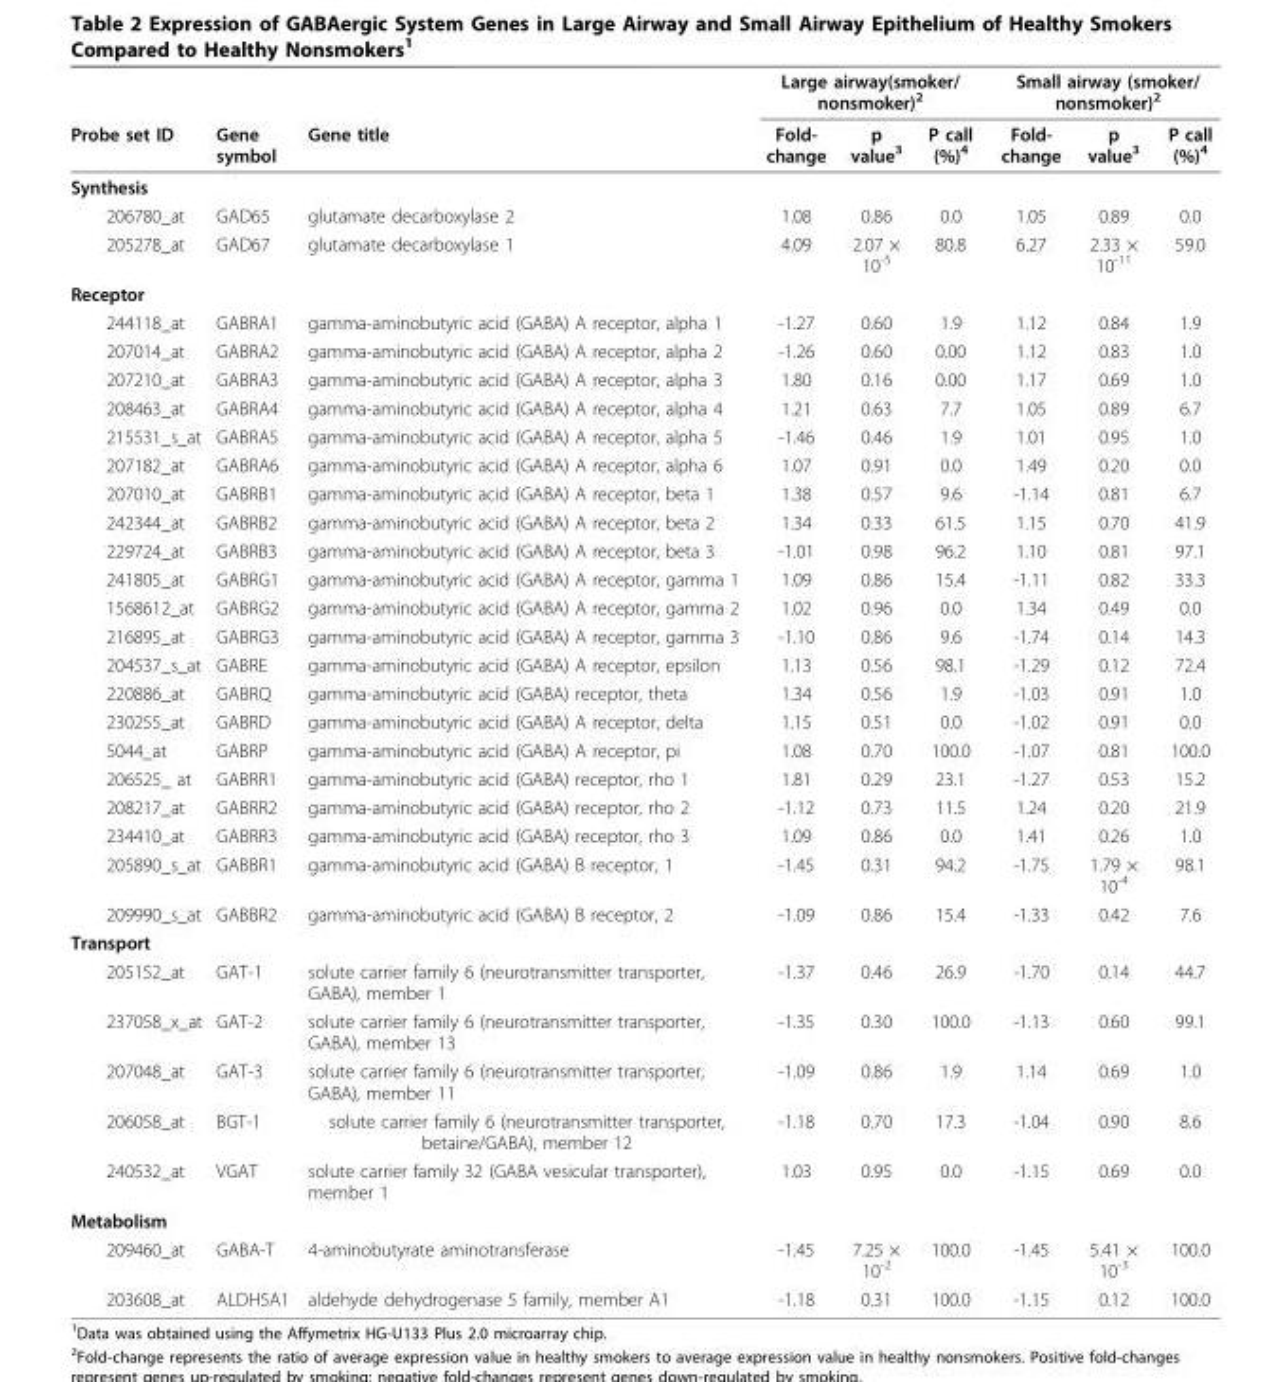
<table><thead><tr><td rowspan="2">Probe set ID</td><td rowspan="2">Gene symbol</td><td rowspan="2">Gene title</td><td colspan="3">Large airway(smoker/ nonsmoker)<sup>2</sup></td><td colspan="3">Small airway (smoker/ nonsmoker)<sup>2</sup></td></tr><tr><td>Fold- change</td><td>p value<sup>3</sup></td><td>P call (%)<sup>4</sup></td><td>Fold- change</td><td>p value<sup>3</sup></td><td>P call (%)<sup>4</sup></td></tr></thead><tbody><tr><td colspan="9">Synthesis</td></tr><tr><td>206780_at</td><td>GAD65</td><td>glutamate decarboxylase 2</td><td>1.08</td><td>0.86</td><td>0.0</td><td>1.05</td><td>0.89</td><td>0.0</td></tr><tr><td>205278_at</td><td>GAD67</td><td>glutamate decarboxylase 1</td><td>4.09</td><td>2.07 × 10<sup>-5</sup></td><td>80.8</td><td>6.27</td><td>2.33 × 10<sup>-11</sup></td><td>59.0</td></tr><tr><td colspan="9">Receptor</td></tr><tr><td>244118_at</td><td>GABRA1</td><td>gamma-aminobutyric acid (GABA) A receptor, alpha 1</td><td>-1.27</td><td>0.60</td><td>1.9</td><td>1.12</td><td>0.84</td><td>1.9</td></tr><tr><td>207014_at</td><td>GABRA2</td><td>gamma-aminobutyric acid (GABA) A receptor, alpha 2</td><td>-1.26</td><td>0.60</td><td>0.00</td><td>1.12</td><td>0.83</td><td>1.0</td></tr><tr><td>207210_at</td><td>GABRA3</td><td>gamma-aminobutyric acid (GABA) A receptor, alpha 3</td><td>1.80</td><td>0.16</td><td>0.00</td><td>1.17</td><td>0.69</td><td>1.0</td></tr><tr><td>208463_at</td><td>GABRA4</td><td>gamma-aminobutyric acid (GABA) A receptor, alpha 4</td><td>1.21</td><td>0.63</td><td>7.7</td><td>1.05</td><td>0.89</td><td>6.7</td></tr><tr><td>215531_s_at</td><td>GABRA5</td><td>gamma-aminobutyric acid (GABA) A receptor, alpha 5</td><td>-1.46</td><td>0.46</td><td>1.9</td><td>1.01</td><td>0.95</td><td>1.0</td></tr><tr><td>207182_at</td><td>GABRA6</td><td>gamma-aminobutyric acid (GABA) A receptor, alpha 6</td><td>1.07</td><td>0.91</td><td>0.0</td><td>1.49</td><td>0.20</td><td>0.0</td></tr><tr><td>207010_at</td><td>GABRB1</td><td>gamma-aminobutyric acid (GABA) A receptor, beta 1</td><td>1.38</td><td>0.57</td><td>9.6</td><td>-1.14</td><td>0.81</td><td>6.7</td></tr><tr><td>242344_at</td><td>GABRB2</td><td>gamma-aminobutyric acid (GABA) A receptor, beta 2</td><td>1.34</td><td>0.33</td><td>61.5</td><td>1.15</td><td>0.70</td><td>41.9</td></tr><tr><td>229724_at</td><td>GABRB3</td><td>gamma-aminobutyric acid (GABA) A receptor, beta 3</td><td>-1.01</td><td>0.98</td><td>96.2</td><td>1.10</td><td>0.81</td><td>97.1</td></tr><tr><td>241805_at</td><td>GABRG1</td><td>gamma-aminobutyric acid (GABA) A receptor, gamma 1</td><td>1.09</td><td>0.86</td><td>15.4</td><td>-1.11</td><td>0.82</td><td>33.3</td></tr><tr><td>1568612_at</td><td>GABRG2</td><td>gamma-aminobutyric acid (GABA) A receptor, gamma 2</td><td>1.02</td><td>0.96</td><td>0.0</td><td>1.34</td><td>0.49</td><td>0.0</td></tr><tr><td>216895_at</td><td>GABRG3</td><td>gamma-aminobutyric acid (GABA) A receptor, gamma 3</td><td>-1.10</td><td>0.86</td><td>9.6</td><td>-1.74</td><td>0.14</td><td>14.3</td></tr><tr><td>204537_s_at</td><td>GABRE</td><td>gamma-aminobutyric acid (GABA) A receptor, epsilon</td><td>1.13</td><td>0.56</td><td>98.1</td><td>-1.29</td><td>0.12</td><td>72.4</td></tr><tr><td>220886_at</td><td>GABRQ</td><td>gamma-aminobutyric acid (GABA) receptor, theta</td><td>1.34</td><td>0.56</td><td>1.9</td><td>-1.03</td><td>0.91</td><td>1.0</td></tr><tr><td>230255_at</td><td>GABRD</td><td>gamma-aminobutyric acid (GABA) A receptor, delta</td><td>1.15</td><td>0.51</td><td>0.0</td><td>-1.02</td><td>0.91</td><td>0.0</td></tr><tr><td>5044_at</td><td>GABRP</td><td>gamma-aminobutyric acid (GABA) A receptor, pi</td><td>1.08</td><td>0.70</td><td>100.0</td><td>-1.07</td><td>0.81</td><td>100.0</td></tr><tr><td>206525_ at</td><td>GABRR1</td><td>gamma-aminobutyric acid (GABA) receptor, rho 1</td><td>1.81</td><td>0.29</td><td>23.1</td><td>-1.27</td><td>0.53</td><td>15.2</td></tr><tr><td>208217_at</td><td>GABRR2</td><td>gamma-aminobutyric acid (GABA) receptor, rho 2</td><td>-1.12</td><td>0.73</td><td>11.5</td><td>1.24</td><td>0.20</td><td>21.9</td></tr><tr><td>234410_at</td><td>GABRR3</td><td>gamma-aminobutyric acid (GABA) receptor, rho 3</td><td>1.09</td><td>0.86</td><td>0.0</td><td>1.41</td><td>0.26</td><td>1.0</td></tr><tr><td>205890_s_at</td><td>GABBR1</td><td>gamma-aminobutyric acid (GABA) B receptor, 1</td><td>-1.45</td><td>0.31</td><td>94.2</td><td>-1.75</td><td>1.79 × 10<sup>-4</sup></td><td>98.1</td></tr><tr><td>209990_s_at</td><td>GABBR2</td><td>gamma-aminobutyric acid (GABA) B receptor, 2</td><td>-1.09</td><td>0.86</td><td>15.4</td><td>-1.33</td><td>0.42</td><td>7.6</td></tr><tr><td colspan="9">Transport</td></tr><tr><td>205152_at</td><td>GAT-1</td><td>solute carrier family 6 (neurotransmitter transporter, GABA), member 1</td><td>-1.37</td><td>0.46</td><td>26.9</td><td>-1.70</td><td>0.14</td><td>44.7</td></tr><tr><td>237058_x_at</td><td>GAT-2</td><td>solute carrier family 6 (neurotransmitter transporter, GABA), member 13</td><td>-1.35</td><td>0.30</td><td>100.0</td><td>-1.13</td><td>0.60</td><td>99.1</td></tr><tr><td>207048_at</td><td>GAT-3</td><td>solute carrier family 6 (neurotransmitter transporter, GABA), member 11</td><td>-1.09</td><td>0.86</td><td>1.9</td><td>1.14</td><td>0.69</td><td>1.0</td></tr><tr><td>206058_at</td><td>BGT-1</td><td>solute carrier family 6 (neurotransmitter transporter, betaine/GABA), member 12</td><td>-1.18</td><td>0.70</td><td>17.3</td><td>-1.04</td><td>0.90</td><td>8.6</td></tr><tr><td>240532_at</td><td>VGAT</td><td>solute carrier family 32 (GABA vesicular transporter), member 1</td><td>1.03</td><td>0.95</td><td>0.0</td><td>-1.15</td><td>0.69</td><td>0.0</td></tr><tr><td colspan="9">Metabolism</td></tr><tr><td>209460_at</td><td>GABA-T</td><td>4-aminobutyrate aminotransferase</td><td>-1.45</td><td>7.25 × 10<sup>-2</sup></td><td>100.0</td><td>-1.45</td><td>5.41 × 10<sup>-3</sup></td><td>100.0</td></tr><tr><td>203608_at</td><td>ALDH5A1</td><td>aldehyde dehydrogenase 5 family, member A1</td><td>-1.18</td><td>0.31</td><td>100.0</td><td>-1.15</td><td>0.12</td><td>100.0</td></tr></tbody></table>